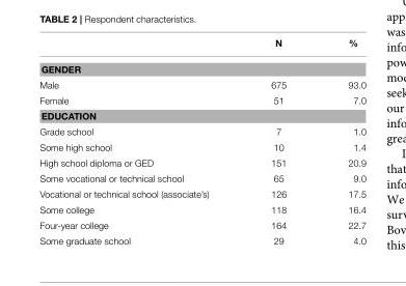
<table><thead><tr><td></td><td>N</td><td>%</td></tr></thead><tbody><tr><td colspan="3">GENDER</td></tr><tr><td>Male</td><td>675</td><td>93.0</td></tr><tr><td>Female</td><td>51</td><td>7.0</td></tr><tr><td colspan="3">EDUCATION</td></tr><tr><td>Grade school</td><td>7</td><td>1.0</td></tr><tr><td>Some high school</td><td>10</td><td>1.4</td></tr><tr><td>High school diploma or GED</td><td>151</td><td>20.9</td></tr><tr><td>Some vocational or technical school</td><td>65</td><td>9.0</td></tr><tr><td>Vocational or technical school (associate’s)</td><td>126</td><td>17.5</td></tr><tr><td>Some college</td><td>118</td><td>16.4</td></tr><tr><td>Four-year college</td><td>164</td><td>22.7</td></tr><tr><td>Some graduate school</td><td>29</td><td>4.0</td></tr></tbody></table>